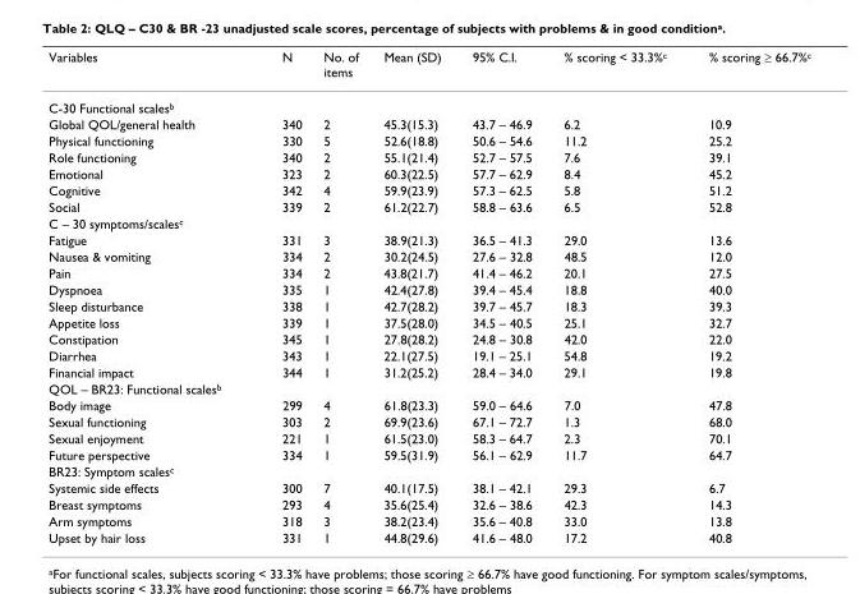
<table><thead><tr><td>Variables</td><td>N</td><td>No. of items</td><td>Mean (SD)</td><td>95% C.I.</td><td>% scoring &lt; 33.3%<sup>c</sup></td><td>% scoring ≥ 66.7%<sup>c</sup></td></tr></thead><tbody><tr><td colspan="7">C-30 Functional scales<sup>b</sup></td></tr><tr><td>Global QOL/general health</td><td>340</td><td>2</td><td>45.3(15.3)</td><td>43.7 – 46.9</td><td>6.2</td><td>10.9</td></tr><tr><td>Physical functioning</td><td>330</td><td>5</td><td>52.6(18.8)</td><td>50.6 – 54.6</td><td>11.2</td><td>25.2</td></tr><tr><td>Role functioning</td><td>340</td><td>2</td><td>55.1(21.4)</td><td>52.7 – 57.5</td><td>7.6</td><td>39.1</td></tr><tr><td>Emotional</td><td>323</td><td>2</td><td>60.3(22.5)</td><td>57.7 – 62.9</td><td>8.4</td><td>45.2</td></tr><tr><td>Cognitive</td><td>342</td><td>4</td><td>59.9(23.9)</td><td>57.3 – 62.5</td><td>5.8</td><td>51.2</td></tr><tr><td>Social</td><td>339</td><td>2</td><td>61.2(22.7)</td><td>58.8 – 63.6</td><td>6.5</td><td>52.8</td></tr><tr><td colspan="7">C – 30 symptoms/scales<sup>c</sup></td></tr><tr><td>Fatigue</td><td>331</td><td>3</td><td>38.9(21.3)</td><td>36.5 – 41.3</td><td>29.0</td><td>13.6</td></tr><tr><td>Nausea &amp; vomiting</td><td>334</td><td>2</td><td>30.2(24.5)</td><td>27.6 – 32.8</td><td>48.5</td><td>12.0</td></tr><tr><td>Pain</td><td>334</td><td>2</td><td>43.8(21.7)</td><td>41.4 – 46.2</td><td>20.1</td><td>27.5</td></tr><tr><td>Dyspnoea</td><td>335</td><td>1</td><td>42.4(27.8)</td><td>39.4 – 45.4</td><td>18.8</td><td>40.0</td></tr><tr><td>Sleep disturbance</td><td>338</td><td>1</td><td>42.7(28.2)</td><td>39.7 – 45.7</td><td>18.3</td><td>39.3</td></tr><tr><td>Appetite loss</td><td>339</td><td>1</td><td>37.5(28.0)</td><td>34.5 – 40.5</td><td>25.1</td><td>32.7</td></tr><tr><td>Constipation</td><td>345</td><td>1</td><td>27.8(28.2)</td><td>24.8 – 30.8</td><td>42.0</td><td>22.0</td></tr><tr><td>Diarrhea</td><td>343</td><td>1</td><td>22.1(27.5)</td><td>19.1 – 25.1</td><td>54.8</td><td>19.2</td></tr><tr><td>Financial impact</td><td>344</td><td>1</td><td>31.2(25.2)</td><td>28.4 – 34.0</td><td>29.1</td><td>19.8</td></tr><tr><td colspan="7">QOL – BR23: Functional scales<sup>b</sup></td></tr><tr><td>Body image</td><td>299</td><td>4</td><td>61.8(23.3)</td><td>59.0 – 64.6</td><td>7.0</td><td>47.8</td></tr><tr><td>Sexual functioning</td><td>303</td><td>2</td><td>69.9(23.6)</td><td>67.1 – 72.7</td><td>1.3</td><td>68.0</td></tr><tr><td>Sexual enjoyment</td><td>221</td><td>1</td><td>61.5(23.0)</td><td>58.3 – 64.7</td><td>2.3</td><td>70.1</td></tr><tr><td>Future perspective</td><td>334</td><td>1</td><td>59.5(31.9)</td><td>56.1 – 62.9</td><td>11.7</td><td>64.7</td></tr><tr><td colspan="7">BR23: Symptom scales<sup>c</sup></td></tr><tr><td>Systemic side effects</td><td>300</td><td>7</td><td>40.1(17.5)</td><td>38.1 – 42.1</td><td>29.3</td><td>6.7</td></tr><tr><td>Breast symptoms</td><td>293</td><td>4</td><td>35.6(25.4)</td><td>32.6 – 38.6</td><td>42.3</td><td>14.3</td></tr><tr><td>Arm symptoms</td><td>318</td><td>3</td><td>38.2(23.4)</td><td>35.6 – 40.8</td><td>33.0</td><td>13.8</td></tr><tr><td>Upset by hair loss</td><td>331</td><td>1</td><td>44.8(29.6)</td><td>41.6 – 48.0</td><td>17.2</td><td>40.8</td></tr></tbody></table>